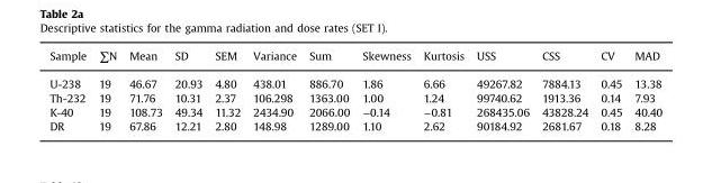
<table><thead><tr><td>Sample</td><td>∑N</td><td>Mean</td><td>SD</td><td>SEM</td><td>Variance</td><td>Sum</td><td>Skewness</td><td>Kurtosis</td><td>USS</td><td>CSS</td><td>CV</td><td>MAD</td></tr></thead><tbody><tr><td>U-238</td><td>19</td><td>46.67</td><td>20.93</td><td>4.80</td><td>438.01</td><td>886.70</td><td>1.86</td><td>6.66</td><td>49267.82</td><td>7884.13</td><td>0.45</td><td>13.38</td></tr><tr><td>Th-232</td><td>19</td><td>71.76</td><td>10.31</td><td>2.37</td><td>106.298</td><td>1363.00</td><td>1.00</td><td>1.24</td><td>99740.62</td><td>1913.36</td><td>0.14</td><td>7.93</td></tr><tr><td>K-40</td><td>19</td><td>108.73</td><td>49.34</td><td>11.32</td><td>2434.90</td><td>2066.00</td><td>−0.14</td><td>−0.81</td><td>268435.06</td><td>43828.24</td><td>0.45</td><td>40.40</td></tr><tr><td>DR</td><td>19</td><td>67.86</td><td>12.21</td><td>2.80</td><td>148.98</td><td>1289.00</td><td>1.10</td><td>2.62</td><td>90184.92</td><td>2681.67</td><td>0.18</td><td>8.28</td></tr></tbody></table>